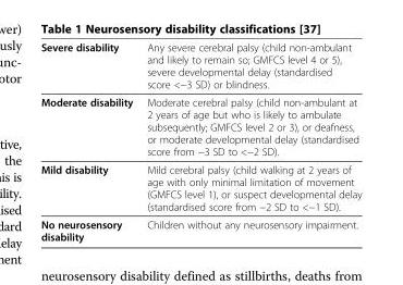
<table><tbody><tr><td>Severe disability</td><td>Any severe cerebral palsy (child non-ambulant and likely to remain so; GMFCS level 4 or 5), severe developmental delay (standardised score &lt;−3 SD) or blindness.</td></tr><tr><td>Moderate disability</td><td>Moderate cerebral palsy (child non-ambulant at 2 years of age but who is likely to ambulate subsequently; GMFCS level 2 or 3), or deafness, or moderate developmental delay (standardised score from −3 SD to &lt;−2 SD).</td></tr><tr><td>Mild disability</td><td>Mild cerebral palsy (child walking at 2 years of age with only minimal limitation of movement (GMFCS level 1), or suspect developmental delay (standardised score from −2 SD to &lt;−1 SD).</td></tr><tr><td>No neurosensory disability</td><td>Children without any neurosensory impairment.</td></tr></tbody></table>